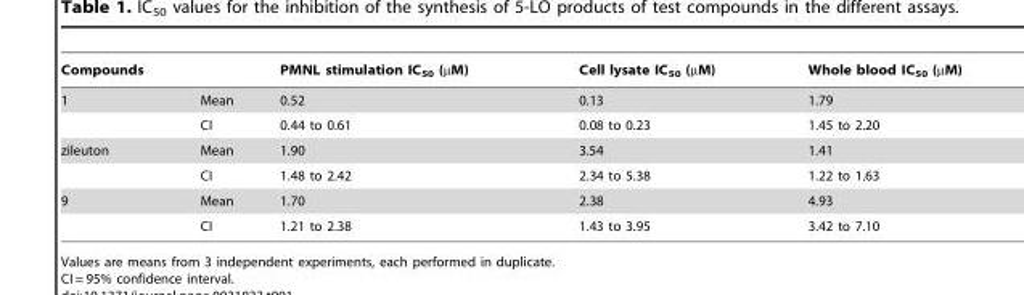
<table><thead><tr><td>Compounds</td><td></td><td>PMNL stimulation IC<sub>50</sub> (µM)</td><td>Cell lysate IC<sub>50</sub> (µM)</td><td>Whole blood IC<sub>50</sub> (µM)</td></tr></thead><tbody><tr><td rowspan="2">1</td><td>Mean</td><td>0.52</td><td>0.13</td><td>1.79</td></tr><tr><td>CI</td><td>0.44 to 0.61</td><td>0.08 to 0.23</td><td>1.45 to 2.20</td></tr><tr><td rowspan="2">zileuton</td><td>Mean</td><td>1.90</td><td>3.54</td><td>1.41</td></tr><tr><td>CI</td><td>1.48 to 2.42</td><td>2.34 to 5.38</td><td>1.22 to 1.63</td></tr><tr><td rowspan="2">9</td><td>Mean</td><td>1.70</td><td>2.38</td><td>4.93</td></tr><tr><td>CI</td><td>1.21 to 2.38</td><td>1.43 to 3.95</td><td>3.42 to 7.10</td></tr></tbody></table>